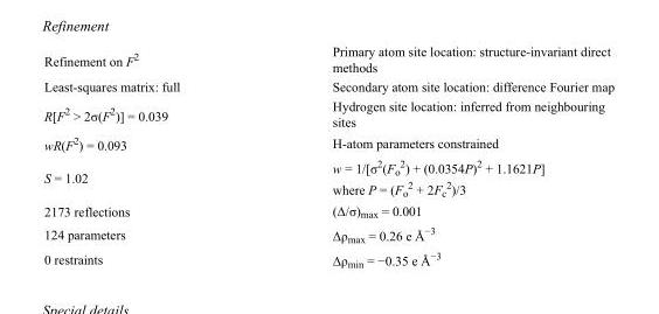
<table><tbody><tr><td>Refinement on F<sup>2</sup></td><td>Primary atom site location: structure-invariant direct methods</td></tr><tr><td>Least-squares matrix: full</td><td>Secondary atom site location: difference Fourier map</td></tr><tr><td>R[F<sup>2</sup> &gt; 2σ(F<sup>2</sup>)] = 0.039</td><td>Hydrogen site location: inferred from neighbouring sites</td></tr><tr><td>wR(F<sup>2</sup>) = 0.093</td><td>H-atom parameters constrained</td></tr><tr><td>S = 1.02</td><td>w = 1/[σ<sup>2</sup>(F<sub>o</sub> <sup>2</sup>) + (0.0354P)<sup>2</sup> + 1.1621P] where P = (F<sub>o</sub> <sup>2</sup> + 2F<sub>c</sub> <sup>2</sup>)/3</td></tr><tr><td>2173 reflections</td><td>(Δ/σ)<sub>max</sub> = 0.001</td></tr><tr><td>124 parameters</td><td>Δρ<sub>max</sub> = 0.26 e Å<sup>−3</sup></td></tr><tr><td>0 restraints</td><td>Δρ<sub>min</sub> = −0.35 e Å<sup>−3</sup></td></tr></tbody></table>